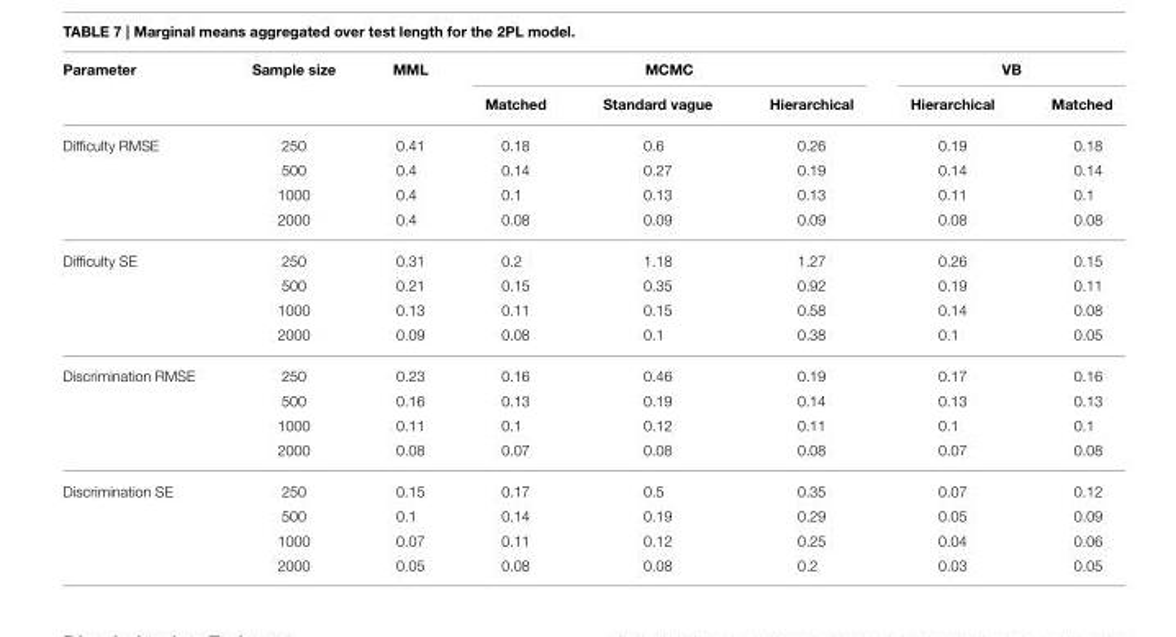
<table><thead><tr><td rowspan="2">Parameter</td><td rowspan="2">Sample size</td><td rowspan="2">MML</td><td colspan="3">MCMC</td><td colspan="2">VB</td></tr><tr><td>Matched</td><td>Standard vague</td><td>Hierarchical</td><td>Hierarchical</td><td>Matched</td></tr></thead><tbody><tr><td rowspan="4">Difficulty RMSE</td><td>250</td><td>0.41</td><td>0.18</td><td>0.6</td><td>0.26</td><td>0.19</td><td>0.18</td></tr><tr><td>500</td><td>0.4</td><td>0.14</td><td>0.27</td><td>0.19</td><td>0.14</td><td>0.14</td></tr><tr><td>1000</td><td>0.4</td><td>0.1</td><td>0.13</td><td>0.13</td><td>0.11</td><td>0.1</td></tr><tr><td>2000</td><td>0.4</td><td>0.08</td><td>0.09</td><td>0.09</td><td>0.08</td><td>0.08</td></tr><tr><td rowspan="4">Difficulty SE</td><td>250</td><td>0.31</td><td>0.2</td><td>1.18</td><td>1.27</td><td>0.26</td><td>0.15</td></tr><tr><td>500</td><td>0.21</td><td>0.15</td><td>0.35</td><td>0.92</td><td>0.19</td><td>0.11</td></tr><tr><td>1000</td><td>0.13</td><td>0.11</td><td>0.15</td><td>0.58</td><td>0.14</td><td>0.08</td></tr><tr><td>2000</td><td>0.09</td><td>0.08</td><td>0.1</td><td>0.38</td><td>0.1</td><td>0.05</td></tr><tr><td rowspan="4">Discrimination RMSE</td><td>250</td><td>0.23</td><td>0.16</td><td>0.46</td><td>0.19</td><td>0.17</td><td>0.16</td></tr><tr><td>500</td><td>0.16</td><td>0.13</td><td>0.19</td><td>0.14</td><td>0.13</td><td>0.13</td></tr><tr><td>1000</td><td>0.11</td><td>0.1</td><td>0.12</td><td>0.11</td><td>0.1</td><td>0.1</td></tr><tr><td>2000</td><td>0.08</td><td>0.07</td><td>0.08</td><td>0.08</td><td>0.07</td><td>0.08</td></tr><tr><td rowspan="4">Discrimination SE</td><td>250</td><td>0.15</td><td>0.17</td><td>0.5</td><td>0.35</td><td>0.07</td><td>0.12</td></tr><tr><td>500</td><td>0.1</td><td>0.14</td><td>0.19</td><td>0.29</td><td>0.05</td><td>0.09</td></tr><tr><td>1000</td><td>0.07</td><td>0.11</td><td>0.12</td><td>0.25</td><td>0.04</td><td>0.06</td></tr><tr><td>2000</td><td>0.05</td><td>0.08</td><td>0.08</td><td>0.2</td><td>0.03</td><td>0.05</td></tr></tbody></table>